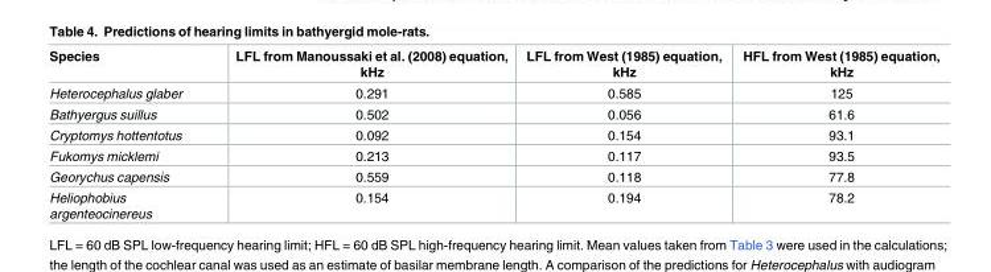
<table><thead><tr><td>Species</td><td>LFL from Manoussaki et al. (2008) equation, kHz</td><td>LFL from West (1985) equation, kHz</td><td>HFL from West (1985) equation, kHz</td></tr></thead><tbody><tr><td>Heterocephalus glaber</td><td>0.291</td><td>0.585</td><td>125</td></tr><tr><td>Bathyergus suillus</td><td>0.502</td><td>0.056</td><td>61.6</td></tr><tr><td>Cryptomys hottentotus</td><td>0.092</td><td>0.154</td><td>93.1</td></tr><tr><td>Fukomys micklemi</td><td>0.213</td><td>0.117</td><td>93.5</td></tr><tr><td>Georychus capensis</td><td>0.559</td><td>0.118</td><td>77.8</td></tr><tr><td>Heliophobius argenteocinereus</td><td>0.154</td><td>0.194</td><td>78.2</td></tr></tbody></table>